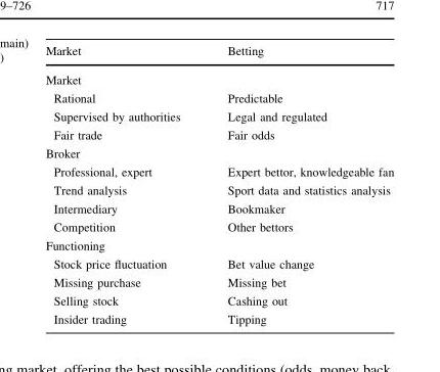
<table><thead><tr><td>Market</td><td>Betting</td></tr></thead><tbody><tr><td colspan="2">Market</td></tr><tr><td>Rational</td><td>Predictable</td></tr><tr><td>Supervised by authorities</td><td>Legal and regulated</td></tr><tr><td>Fair trade</td><td>Fair odds</td></tr><tr><td colspan="2">Broker</td></tr><tr><td>Professional, expert</td><td>Expert bettor, knowledgeable fan</td></tr><tr><td>Trend analysis</td><td>Sport data and statistics analysis</td></tr><tr><td>Intermediary</td><td>Bookmaker</td></tr><tr><td>Competition</td><td>Other bettors</td></tr><tr><td colspan="2">Functioning</td></tr><tr><td>Stock price fluctuation</td><td>Bet value change</td></tr><tr><td>Missing purchase</td><td>Missing bet</td></tr><tr><td>Selling stock</td><td>Cashing out</td></tr><tr><td>Insider trading</td><td>Tipping</td></tr></tbody></table>